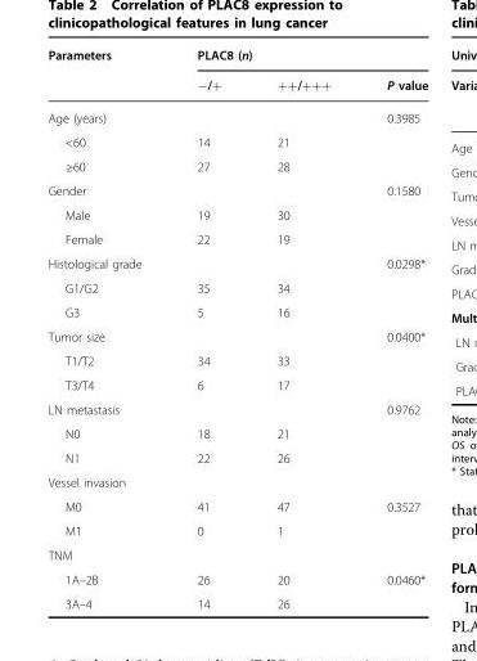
<table><thead><tr><td rowspan="2">Parameters</td><td colspan="3">PLAC8 (n)</td></tr><tr><td>−/+</td><td>++/+++</td><td>P value</td></tr></thead><tbody><tr><td colspan="3">Age (years)</td><td rowspan="3">0.3985</td></tr><tr><td>&lt;60</td><td>14</td><td>21</td></tr><tr><td>≥60</td><td>27</td><td>28</td></tr><tr><td colspan="3">Gender</td><td rowspan="3">0.1580</td></tr><tr><td>Male</td><td>19</td><td>30</td></tr><tr><td>Female</td><td>22</td><td>19</td></tr><tr><td colspan="3">Histological grade</td><td rowspan="3">0.0298*</td></tr><tr><td>G1/G2</td><td>35</td><td>34</td></tr><tr><td>G3</td><td>5</td><td>16</td></tr><tr><td colspan="3">Tumor size</td><td rowspan="3">0.0400*</td></tr><tr><td>T1/T2</td><td>34</td><td>33</td></tr><tr><td>T3/T4</td><td>6</td><td>17</td></tr><tr><td colspan="3">LN metastasis</td><td rowspan="3">0.9762</td></tr><tr><td>N0</td><td>18</td><td>21</td></tr><tr><td>N1</td><td>22</td><td>26</td></tr><tr><td colspan="4">Vessel invasion</td></tr><tr><td>M0</td><td>41</td><td>47</td><td rowspan="2">0.3527</td></tr><tr><td>M1</td><td>0</td><td>1</td></tr><tr><td colspan="4">TNM</td></tr><tr><td>1A–2B</td><td>26</td><td>20</td><td rowspan="2">0.0460*</td></tr><tr><td>3A–4</td><td>14</td><td>26</td></tr></tbody></table>